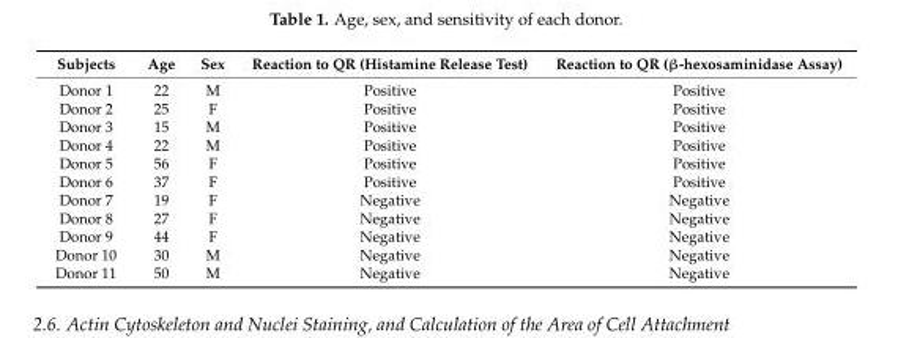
<table><thead><tr><td>Subjects</td><td>Age</td><td>Sex</td><td>Reaction to QR (Histamine Release Test)</td><td>Reaction to QR (β-hexosaminidase Assay)</td></tr></thead><tbody><tr><td>Donor 1</td><td>22</td><td>M</td><td>Positive</td><td>Positive</td></tr><tr><td>Donor 2</td><td>25</td><td>F</td><td>Positive</td><td>Positive</td></tr><tr><td>Donor 3</td><td>15</td><td>M</td><td>Positive</td><td>Positive</td></tr><tr><td>Donor 4</td><td>22</td><td>M</td><td>Positive</td><td>Positive</td></tr><tr><td>Donor 5</td><td>56</td><td>F</td><td>Positive</td><td>Positive</td></tr><tr><td>Donor 6</td><td>37</td><td>F</td><td>Positive</td><td>Positive</td></tr><tr><td>Donor 7</td><td>19</td><td>F</td><td>Negative</td><td>Negative</td></tr><tr><td>Donor 8</td><td>27</td><td>F</td><td>Negative</td><td>Negative</td></tr><tr><td>Donor 9</td><td>44</td><td>F</td><td>Negative</td><td>Negative</td></tr><tr><td>Donor 10</td><td>30</td><td>M</td><td>Negative</td><td>Negative</td></tr><tr><td>Donor 11</td><td>50</td><td>M</td><td>Negative</td><td>Negative</td></tr></tbody></table>